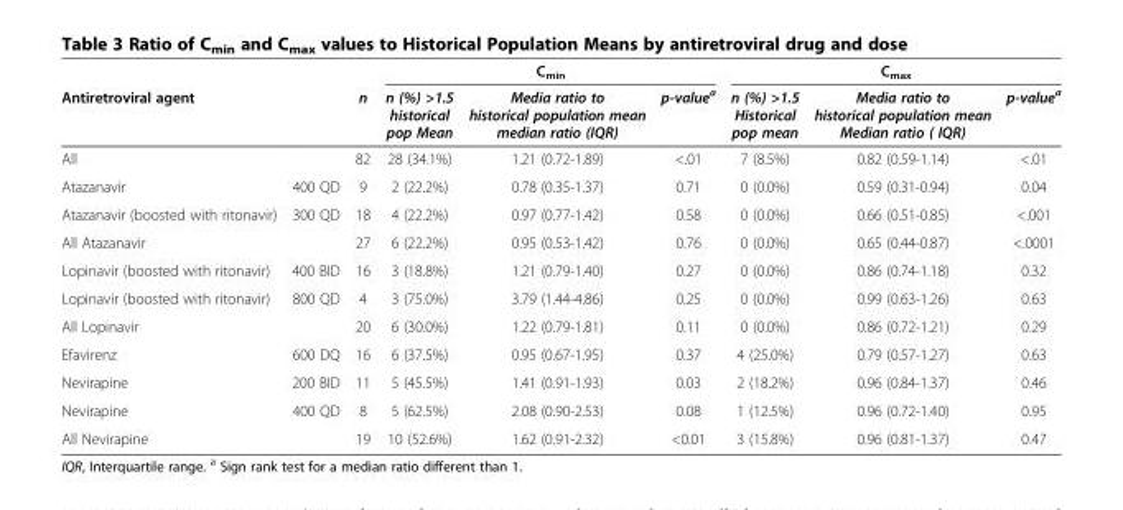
<table><thead><tr><td rowspan="2">Antiretroviral agent</td><td rowspan="2"></td><td rowspan="2">n</td><td colspan="3">C<sub>min</sub></td><td colspan="3">C<sub>max</sub></td></tr><tr><td>n (%) &gt;1.5 historical pop Mean</td><td>Media ratio to historical population mean median ratio (IQR)</td><td>p-value<sup>a</sup></td><td>n (%) &gt;1.5 Historical pop mean</td><td>Media ratio to historical population mean Median ratio ( IQR)</td><td>p-value<sup>a</sup></td></tr></thead><tbody><tr><td>All</td><td></td><td>82</td><td>28 (34.1%)</td><td>1.21 (0.72-1.89)</td><td>&lt;.01</td><td>7 (8.5%)</td><td>0.82 (0.59-1.14)</td><td>&lt;.01</td></tr><tr><td>Atazanavir</td><td>400 QD</td><td>9</td><td>2 (22.2%)</td><td>0.78 (0.35-1.37)</td><td>0.71</td><td>0 (0.0%)</td><td>0.59 (0.31-0.94)</td><td>0.04</td></tr><tr><td>Atazanavir (boosted with ritonavir)</td><td>300 QD</td><td>18</td><td>4 (22.2%)</td><td>0.97 (0.77-1.42)</td><td>0.58</td><td>0 (0.0%)</td><td>0.66 (0.51-0.85)</td><td>&lt;.001</td></tr><tr><td>All Atazanavir</td><td></td><td>27</td><td>6 (22.2%)</td><td>0.95 (0.53-1.42)</td><td>0.76</td><td>0 (0.0%)</td><td>0.65 (0.44-0.87)</td><td>&lt;.0001</td></tr><tr><td>Lopinavir (boosted with ritonavir)</td><td>400 BID</td><td>16</td><td>3 (18.8%)</td><td>1.21 (0.79-1.40)</td><td>0.27</td><td>0 (0.0%)</td><td>0.86 (0.74-1.18)</td><td>0.32</td></tr><tr><td>Lopinavir (boosted with ritonavir)</td><td>800 QD</td><td>4</td><td>3 (75.0%)</td><td>3.79 (1.44-4.86)</td><td>0.25</td><td>0 (0.0%)</td><td>0.99 (0.63-1.26)</td><td>0.63</td></tr><tr><td>All Lopinavir</td><td></td><td>20</td><td>6 (30.0%)</td><td>1.22 (0.79-1.81)</td><td>0.11</td><td>0 (0.0%)</td><td>0.86 (0.72-1.21)</td><td>0.29</td></tr><tr><td>Efavirenz</td><td>600 DQ</td><td>16</td><td>6 (37.5%)</td><td>0.95 (0.67-1.95)</td><td>0.37</td><td>4 (25.0%)</td><td>0.79 (0.57-1.27)</td><td>0.63</td></tr><tr><td>Nevirapine</td><td>200 BID</td><td>11</td><td>5 (45.5%)</td><td>1.41 (0.91-1.93)</td><td>0.03</td><td>2 (18.2%)</td><td>0.96 (0.84-1.37)</td><td>0.46</td></tr><tr><td>Nevirapine</td><td>400 QD</td><td>8</td><td>5 (62.5%)</td><td>2.08 (0.90-2.53)</td><td>0.08</td><td>1 (12.5%)</td><td>0.96 (0.72-1.40)</td><td>0.95</td></tr><tr><td>All Nevirapine</td><td></td><td>19</td><td>10 (52.6%)</td><td>1.62 (0.91-2.32)</td><td>&lt;0.01</td><td>3 (15.8%)</td><td>0.96 (0.81-1.37)</td><td>0.47</td></tr></tbody></table>